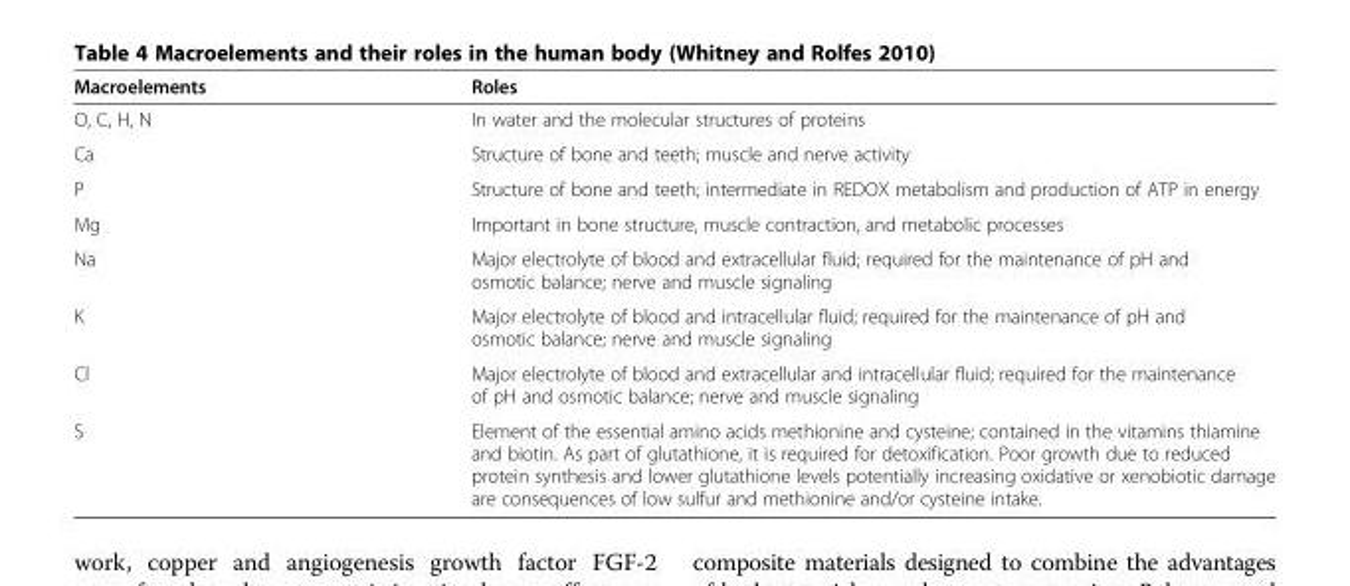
<table><thead><tr><td>Macroelements</td><td>Roles</td></tr></thead><tbody><tr><td>O, C, H, N</td><td>In water and the molecular structures of proteins</td></tr><tr><td>Ca</td><td>Structure of bone and teeth; muscle and nerve activity</td></tr><tr><td>P</td><td>Structure of bone and teeth; intermediate in REDOX metabolism and production of ATP in energy</td></tr><tr><td>Mg</td><td>Important in bone structure, muscle contraction, and metabolic processes</td></tr><tr><td>Na</td><td>Major electrolyte of blood and extracellular fluid; required for the maintenance of pH and osmotic balance; nerve and muscle signaling</td></tr><tr><td>K</td><td>Major electrolyte of blood and intracellular fluid; required for the maintenance of pH and osmotic balance; nerve and muscle signaling</td></tr><tr><td>Cl</td><td>Major electrolyte of blood and extracellular and intracellular fluid; required for the maintenance of pH and osmotic balance; nerve and muscle signaling</td></tr><tr><td>S</td><td>Element of the essential amino acids methionine and cysteine; contained in the vitamins thiamine and biotin. As part of glutathione, it is required for detoxification. Poor growth due to reduced protein synthesis and lower glutathione levels potentially increasing oxidative or xenobiotic damage are consequences of low sulfur and methionine and/or cysteine intake.</td></tr></tbody></table>